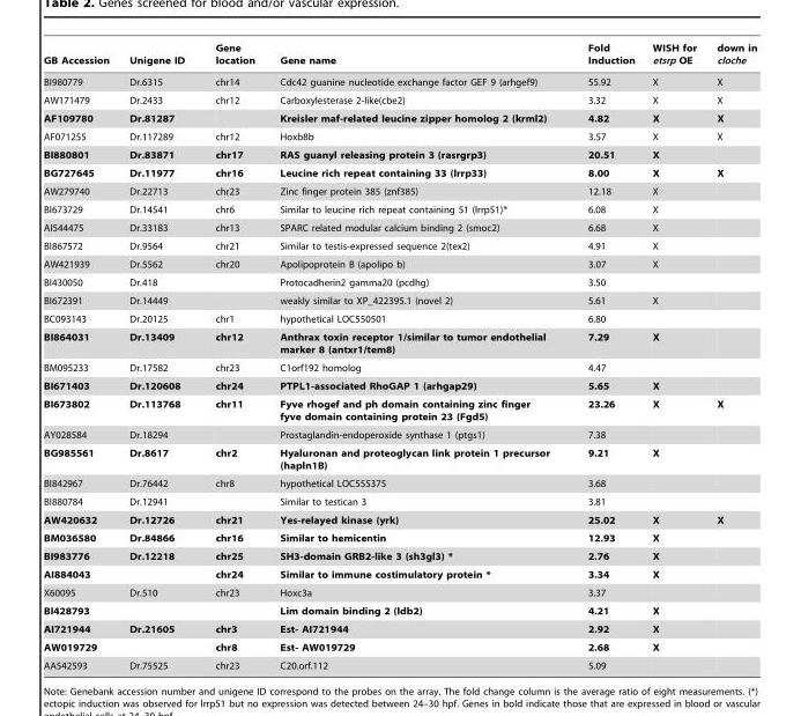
<table><thead><tr><td>GB Accession</td><td>Unigene ID</td><td>Gene location</td><td>Gene name</td><td>Fold Induction</td><td>WISH for etsrp OE</td><td>down in cloche</td></tr></thead><tbody><tr><td>BI980779</td><td>Dr.6315</td><td>chr14</td><td>Cdc42 guanine nucleotide exchange factor GEF 9 (arhgef9)</td><td>55.92</td><td>X</td><td>X</td></tr><tr><td>AW171479</td><td>Dr.2433</td><td>chr12</td><td>Carboxylesterase 2-like(cbe2)</td><td>3.32</td><td>X</td><td>X</td></tr><tr><td>AF109780</td><td>Dr.81287</td><td></td><td>Kreisler maf-related leucine zipper homolog 2 (krml2)</td><td>4.82</td><td>X</td><td>X</td></tr><tr><td>AF071255</td><td>Dr.117289</td><td>chr12</td><td>Hoxb8b</td><td>3.57</td><td>X</td><td>X</td></tr><tr><td>BI880801</td><td>Dr.83871</td><td>chr17</td><td>RAS guanyl releasing protein 3 (rasrgrp3)</td><td>20.51</td><td>X</td><td></td></tr><tr><td>BG727645</td><td>Dr.11977</td><td>chr16</td><td>Leucine rich repeat containing 33 (lrrp33)</td><td>8.00</td><td>X</td><td>X</td></tr><tr><td>AW279740</td><td>Dr.22713</td><td>chr23</td><td>Zinc finger protein 385 (znf385)</td><td>12.18</td><td>X</td><td></td></tr><tr><td>BI673729</td><td>Dr.14541</td><td>chr6</td><td>Similar to leucine rich repeat containing 51 (lrrp51)*</td><td>6.08</td><td>X</td><td></td></tr><tr><td>AI544475</td><td>Dr.33183</td><td>chr13</td><td>SPARC related modular calcium binding 2 (smoc2)</td><td>6.68</td><td>X</td><td></td></tr><tr><td>BI867572</td><td>Dr.9564</td><td>chr21</td><td>Similar to testis-expressed sequence 2(tex2)</td><td>4.91</td><td>X</td><td></td></tr><tr><td>AW421939</td><td>Dr.5562</td><td>chr20</td><td>Apolipoprotein B (apolipo b)</td><td>3.07</td><td>X</td><td></td></tr><tr><td>BI430050</td><td>Dr.418</td><td></td><td>Protocadherin2 gamma20 (pcdhg)</td><td>3.50</td><td></td><td></td></tr><tr><td>BI672391</td><td>Dr.14449</td><td></td><td>weakly similar to XP_422395.1 (novel 2)</td><td>5.61</td><td>X</td><td></td></tr><tr><td>BC093143</td><td>Dr.20125</td><td>chr1</td><td>hypothetical LOC550501</td><td>6.80</td><td></td><td></td></tr><tr><td>BI864031</td><td>Dr.13409</td><td>chr12</td><td>Anthrax toxin receptor 1/similar to tumor endothelial marker 8 (antxr1/tem8)</td><td>7.29</td><td>X</td><td></td></tr><tr><td>BM095233</td><td>Dr.17582</td><td>chr23</td><td>C1orf192 homolog</td><td>4.47</td><td></td><td></td></tr><tr><td>BI671403</td><td>Dr.120608</td><td>chr24</td><td>PTPL1-associated RhoGAP 1 (arhgap29)</td><td>5.65</td><td>X</td><td></td></tr><tr><td>BI673802</td><td>Dr.113768</td><td>chr11</td><td>Fyve rhogef and ph domain containing zinc finger fyve domain containing protein 23 (Fgd5)</td><td>23.26</td><td>X</td><td>X</td></tr><tr><td>AY028584</td><td>Dr.18294</td><td></td><td>Prostaglandin-endoperoxide synthase 1 (ptgs1)</td><td>7.38</td><td></td><td></td></tr><tr><td>BG985561</td><td>Dr.8617</td><td>chr2</td><td>Hyaluronan and proteoglycan link protein 1 precursor (hapln1B)</td><td>9.21</td><td>X</td><td></td></tr><tr><td>BI842967</td><td>Dr.76442</td><td>chr8</td><td>hypothetical LOC555375</td><td>3.68</td><td></td><td></td></tr><tr><td>BI880784</td><td>Dr.12941</td><td></td><td>Similar to testican 3</td><td>3.81</td><td></td><td></td></tr><tr><td>AW420632</td><td>Dr.12726</td><td>chr21</td><td>Yes-relayed kinase (yrk)</td><td>25.02</td><td>X</td><td>X</td></tr><tr><td>BM036580</td><td>Dr.84866</td><td>chr16</td><td>Similar to hemicentin</td><td>12.93</td><td>X</td><td></td></tr><tr><td>BI983776</td><td>Dr.12218</td><td>chr25</td><td>SH3-domain GRB2-like 3 (sh3gl3) *</td><td>2.76</td><td>X</td><td></td></tr><tr><td>AI884043</td><td></td><td>chr24</td><td>Similar to immune costimulatory protein *</td><td>3.34</td><td>X</td><td></td></tr><tr><td>X60095</td><td>Dr.510</td><td>chr23</td><td>Hoxc3a</td><td>3.37</td><td></td><td></td></tr><tr><td>BI428793</td><td></td><td></td><td>Lim domain binding 2 (ldb2)</td><td>4.21</td><td>X</td><td></td></tr><tr><td>AI721944</td><td>Dr.21605</td><td>chr3</td><td>Est- AI721944</td><td>2.92</td><td>X</td><td></td></tr><tr><td>AW019729</td><td></td><td>chr8</td><td>Est- AW019729</td><td>2.68</td><td>X</td><td></td></tr><tr><td>AA542593</td><td>Dr.75525</td><td>chr23</td><td>C20.orf.112</td><td>5.09</td><td></td><td></td></tr></tbody></table>